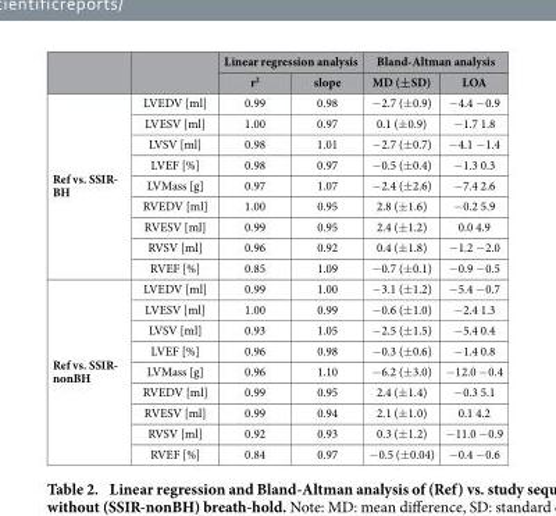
<table><thead><tr><td rowspan="2"></td><td rowspan="2"></td><td colspan="2">Linear regression analysis</td><td colspan="2">Bland-Altman analysis</td></tr><tr><td>r<sup>2</sup></td><td>slope</td><td>MD (±SD)</td><td>LOA</td></tr></thead><tbody><tr><td rowspan="9">Ref vs. SSIR- BH</td><td>LVEDV [ml]</td><td>0.99</td><td>0.98</td><td>− 2.7 (± 0.9)</td><td>− 4.4 − 0.9</td></tr><tr><td>LVESV [ml]</td><td>1.00</td><td>0.97</td><td>0.1 (± 0.9)</td><td>− 1.7 1.8</td></tr><tr><td>LVSV [ml]</td><td>0.98</td><td>1.01</td><td>− 2.7 (± 0.7)</td><td>− 4.1 − 1.4</td></tr><tr><td>LVEF [%]</td><td>0.98</td><td>0.97</td><td>− 0.5 (± 0.4)</td><td>− 1.3 0.3</td></tr><tr><td>LVMass [g]</td><td>0.97</td><td>1.07</td><td>− 2.4 (± 2.6)</td><td>− 7.4 2.6</td></tr><tr><td>RVEDV [ml]</td><td>1.00</td><td>0.95</td><td>2.8 (± 1.6)</td><td>− 0.2 5.9</td></tr><tr><td>RVESV [ml]</td><td>0.99</td><td>0.95</td><td>2.4 (± 1.2)</td><td>0.0 4.9</td></tr><tr><td>RVSV [ml]</td><td>0.96</td><td>0.92</td><td>0.4 (± 1.8)</td><td>− 1.2 − 2.0</td></tr><tr><td>RVEF [%]</td><td>0.85</td><td>1.09</td><td>− 0.7 (± 0.1)</td><td>− 0.9 − 0.5</td></tr><tr><td rowspan="9">Ref vs. SSIR- nonBH</td><td>LVEDV [ml]</td><td>0.99</td><td>1.00</td><td>− 3.1 (± 1.2)</td><td>− 5.4 − 0.7</td></tr><tr><td>LVESV [ml]</td><td>1.00</td><td>0.99</td><td>− 0.6 (± 1.0)</td><td>− 2.4 1.3</td></tr><tr><td>LVSV [ml]</td><td>0.93</td><td>1.05</td><td>− 2.5 (± 1.5)</td><td>− 5.4 0.4</td></tr><tr><td>LVEF [%]</td><td>0.96</td><td>0.98</td><td>− 0.3 (± 0.6)</td><td>− 1.4 0.8</td></tr><tr><td>LVMass [g]</td><td>0.96</td><td>1.10</td><td>− 6.2 (± 3.0)</td><td>− 12.0 − 0.4</td></tr><tr><td>RVEDV [ml]</td><td>0.99</td><td>0.95</td><td>2.4 (± 1.4)</td><td>− 0.3 5.1</td></tr><tr><td>RVESV [ml]</td><td>0.99</td><td>0.94</td><td>2.1 (± 1.0)</td><td>0.1 4.2</td></tr><tr><td>RVSV [ml]</td><td>0.92</td><td>0.93</td><td>0.3 (± 1.2)</td><td>− 11.0 − 0.9</td></tr><tr><td>RVEF [%]</td><td>0.84</td><td>0.97</td><td>− 0.5 (± 0.04)</td><td>− 0.4 − 0.6</td></tr></tbody></table>